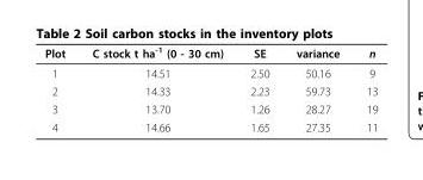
<table><thead><tr><td>Plot</td><td>C stock t ha<sup>-1</sup> (0 - 30 cm)</td><td>SE</td><td>variance</td><td>n</td></tr></thead><tbody><tr><td>1</td><td>14.51</td><td>2.50</td><td>50.16</td><td>9</td></tr><tr><td>2</td><td>14.33</td><td>2.23</td><td>59.73</td><td>13</td></tr><tr><td>3</td><td>13.70</td><td>1.26</td><td>28.27</td><td>19</td></tr><tr><td>4</td><td>14.66</td><td>1.65</td><td>27.35</td><td>11</td></tr></tbody></table>